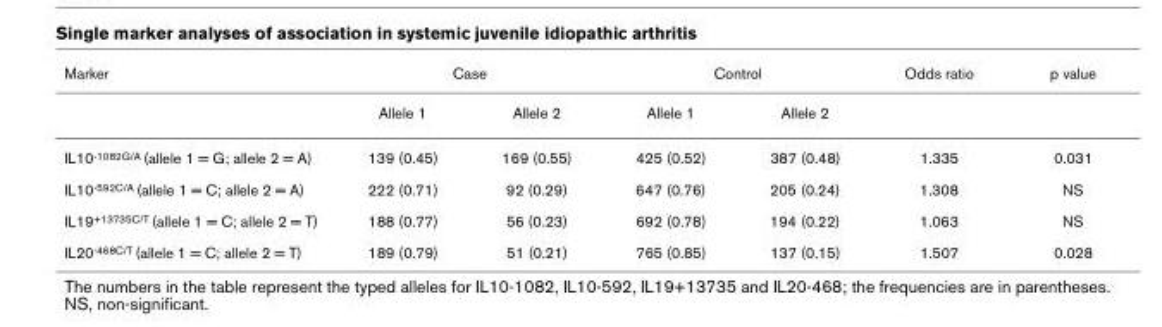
<table><thead><tr><td rowspan="2">Marker</td><td colspan="2">Case</td><td colspan="2">Control</td><td rowspan="2">Odds ratio</td><td rowspan="2">p value</td></tr><tr><td>Allele 1</td><td>Allele 2</td><td>Allele 1</td><td>Allele 2</td></tr></thead><tbody><tr><td>IL10-1082G/A (allele 1 = G; allele 2 = A)</td><td>139 (0.45)</td><td>169 (0.55)</td><td>425 (0.52)</td><td>387 (0.48)</td><td>1.335</td><td>0.031</td></tr><tr><td>IL10-592C/A (allele 1 = C; allele 2 = A)</td><td>222 (0.71)</td><td>92 (0.29)</td><td>647 (0.76)</td><td>205 (0.24)</td><td>1.308</td><td>NS</td></tr><tr><td>IL19+13735C/T (allele 1 = C; allele 2 = T)</td><td>188 (0.77)</td><td>56 (0.23)</td><td>692 (0.78)</td><td>194 (0.22)</td><td>1.063</td><td>NS</td></tr><tr><td>IL20-468C/T (allele 1 = C; allele 2 = T)</td><td>189 (0.79)</td><td>51 (0.21)</td><td>765 (0.85)</td><td>137 (0.15)</td><td>1.507</td><td>0.028</td></tr></tbody></table>